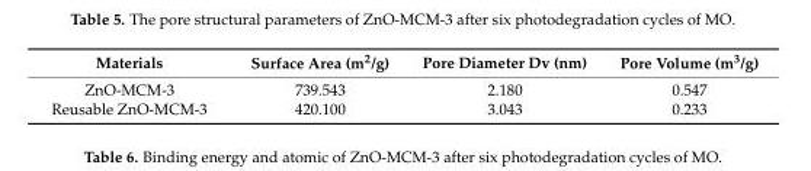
<table><thead><tr><td>Materials</td><td>Surface Area (m2/g)</td><td>Pore Diameter Dv (nm)</td><td>Pore Volume (m3/g)</td></tr></thead><tbody><tr><td>ZnO-MCM-3</td><td>739.543</td><td>2.180</td><td>0.547</td></tr><tr><td>Reusable ZnO-MCM-3</td><td>420.100</td><td>3.043</td><td>0.233</td></tr></tbody></table>